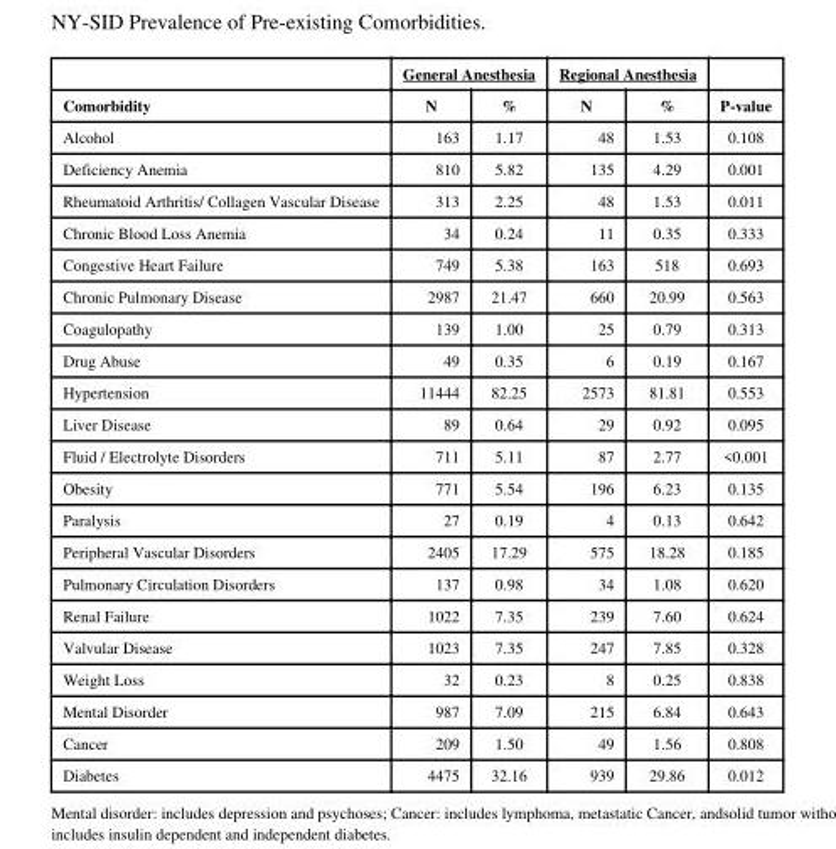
<table><thead><tr><td rowspan="2">Comorbidity</td><td colspan="2">General Anesthesia</td><td colspan="2">Regional Anesthesia</td><td rowspan="2">P-value</td></tr><tr><td>N</td><td>%</td><td>N</td><td>%</td></tr></thead><tbody><tr><td>Alcohol</td><td>163</td><td>1.17</td><td>48</td><td>1.53</td><td>0.108</td></tr><tr><td>Deficiency Anemia</td><td>810</td><td>5.82</td><td>135</td><td>4.29</td><td>0.001</td></tr><tr><td>Rheumatoid Arthritis/ Collagen Vascular Disease</td><td>313</td><td>2.25</td><td>48</td><td>1.53</td><td>0.011</td></tr><tr><td>Chronic Blood Loss Anemia</td><td>34</td><td>0.24</td><td>11</td><td>0.35</td><td>0.333</td></tr><tr><td>Congestive Heart Failure</td><td>749</td><td>5.38</td><td>163</td><td>518</td><td>0.693</td></tr><tr><td>Chronic Pulmonary Disease</td><td>2987</td><td>21.47</td><td>660</td><td>20.99</td><td>0.563</td></tr><tr><td>Coagulopathy</td><td>139</td><td>1.00</td><td>25</td><td>0.79</td><td>0.313</td></tr><tr><td>Drug Abuse</td><td>49</td><td>0.35</td><td>6</td><td>0.19</td><td>0.167</td></tr><tr><td>Hypertension</td><td>11444</td><td>82.25</td><td>2573</td><td>81.81</td><td>0.553</td></tr><tr><td>Liver Disease</td><td>89</td><td>0.64</td><td>29</td><td>0.92</td><td>0.095</td></tr><tr><td>Fluid / Electrolyte Disorders</td><td>711</td><td>5.11</td><td>87</td><td>2.77</td><td>&lt;0.001</td></tr><tr><td>Obesity</td><td>771</td><td>5.54</td><td>196</td><td>6.23</td><td>0.135</td></tr><tr><td>Paralysis</td><td>27</td><td>0.19</td><td>4</td><td>0.13</td><td>0.642</td></tr><tr><td>Peripheral Vascular Disorders</td><td>2405</td><td>17.29</td><td>575</td><td>18.28</td><td>0.185</td></tr><tr><td>Pulmonary Circulation Disorders</td><td>137</td><td>0.98</td><td>34</td><td>1.08</td><td>0.620</td></tr><tr><td>Renal Failure</td><td>1022</td><td>7.35</td><td>239</td><td>7.60</td><td>0.624</td></tr><tr><td>Valvular Disease</td><td>1023</td><td>7.35</td><td>247</td><td>7.85</td><td>0.328</td></tr><tr><td>Weight Loss</td><td>32</td><td>0.23</td><td>8</td><td>0.25</td><td>0.838</td></tr><tr><td>Mental Disorder</td><td>987</td><td>7.09</td><td>215</td><td>6.84</td><td>0.643</td></tr><tr><td>Cancer</td><td>209</td><td>1.50</td><td>49</td><td>1.56</td><td>0.808</td></tr><tr><td>Diabetes</td><td>4475</td><td>32.16</td><td>939</td><td>29.86</td><td>0.012</td></tr></tbody></table>